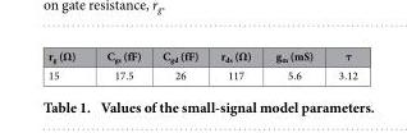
<table><thead><tr><td>r<sub>g</sub> (Ω)</td><td>C<sub>gs</sub> (fF)</td><td>C<sub>gd</sub> (fF)</td><td>r<sub>ds</sub> (Ω)</td><td>g<sub>m</sub> (mS)</td><td>τ</td></tr></thead><tbody><tr><td>15</td><td>17.5</td><td>26</td><td>117</td><td>5.6</td><td>3.12</td></tr></tbody></table>